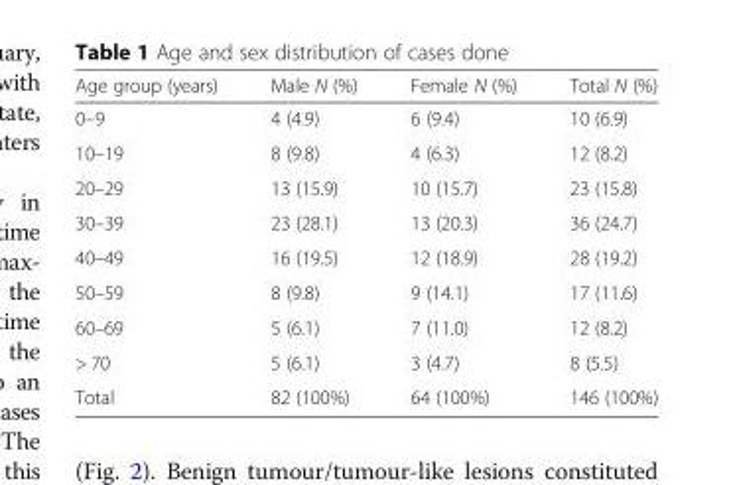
<table><thead><tr><td>Age group (years)</td><td>Male N (%)</td><td>Female N (%)</td><td>Total N (%)</td></tr></thead><tbody><tr><td>0–9</td><td>4 (4.9)</td><td>6 (9.4)</td><td>10 (6.9)</td></tr><tr><td>10–19</td><td>8 (9.8)</td><td>4 (6.3)</td><td>12 (8.2)</td></tr><tr><td>20–29</td><td>13 (15.9)</td><td>10 (15.7)</td><td>23 (15.8)</td></tr><tr><td>30–39</td><td>23 (28.1)</td><td>13 (20.3)</td><td>36 (24.7)</td></tr><tr><td>40–49</td><td>16 (19.5)</td><td>12 (18.9)</td><td>28 (19.2)</td></tr><tr><td>50–59</td><td>8 (9.8)</td><td>9 (14.1)</td><td>17 (11.6)</td></tr><tr><td>60–69</td><td>5 (6.1)</td><td>7 (11.0)</td><td>12 (8.2)</td></tr><tr><td>&gt; 70</td><td>5 (6.1)</td><td>3 (4.7)</td><td>8 (5.5)</td></tr><tr><td>Total</td><td>82 (100%)</td><td>64 (100%)</td><td>146 (100%)</td></tr></tbody></table>